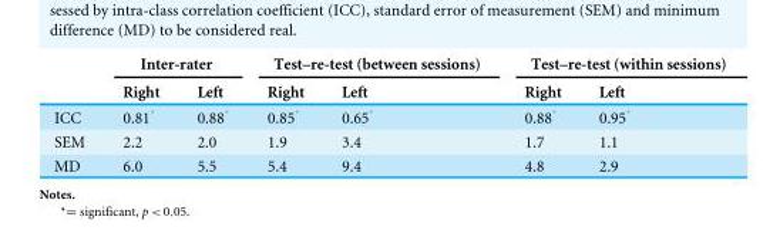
<table><thead><tr><td rowspan="2"></td><td colspan="2">Inter-rater</td><td colspan="2">Test–re-test (between sessions)</td><td colspan="2">Test–re-test (within sessions)</td></tr><tr><td>Right</td><td>Left</td><td>Right</td><td>Left</td><td>Right</td><td>Left</td></tr></thead><tbody><tr><td>ICC</td><td>0.81*</td><td>0.88*</td><td>0.85*</td><td>0.65*</td><td>0.88*</td><td>0.95*</td></tr><tr><td>SEM</td><td>2.2</td><td>2.0</td><td>1.9</td><td>3.4</td><td>1.7</td><td>1.1</td></tr><tr><td>MD</td><td>6.0</td><td>5.5</td><td>5.4</td><td>9.4</td><td>4.8</td><td>2.9</td></tr></tbody></table>